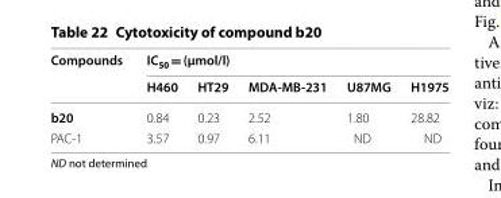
<table><thead><tr><td rowspan="2">Compounds</td><td colspan="5">IC<sub>50</sub> = (µmol/l)</td></tr><tr><td>H460</td><td>HT29</td><td>MDA-MB-231</td><td>U87MG</td><td>H1975</td></tr></thead><tbody><tr><td>b20</td><td>0.84</td><td>0.23</td><td>2.52</td><td>1.80</td><td>28.82</td></tr><tr><td>PAC-1</td><td>3.57</td><td>0.97</td><td>6.11</td><td>ND</td><td>ND</td></tr></tbody></table>